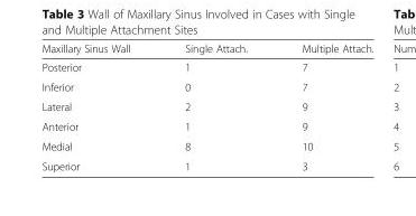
<table><thead><tr><td>Maxillary Sinus Wall</td><td>Single Attach.</td><td>Multiple Attach.</td></tr></thead><tbody><tr><td>Posterior</td><td>1</td><td>7</td></tr><tr><td>Inferior</td><td>0</td><td>7</td></tr><tr><td>Lateral</td><td>2</td><td>9</td></tr><tr><td>Anterior</td><td>1</td><td>9</td></tr><tr><td>Medial</td><td>8</td><td>10</td></tr><tr><td>Superior</td><td>1</td><td>3</td></tr></tbody></table>